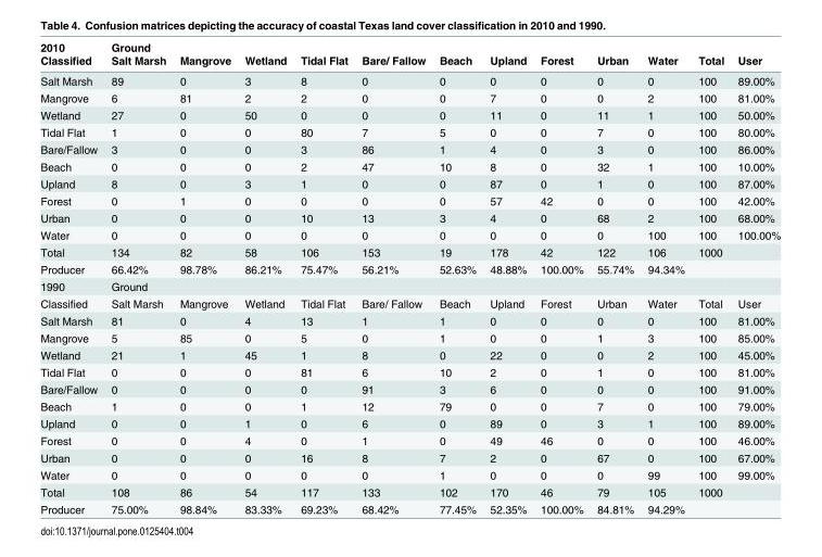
<table><thead><tr><td rowspan="2">2010 Classified</td><td rowspan="2">Ground Salt Marsh</td><td rowspan="2">Mangrove</td><td rowspan="2">Wetland</td><td rowspan="2">Tidal Flat</td><td rowspan="2">Bare/ Fallow</td><td rowspan="2">Beach</td><td rowspan="2">Upland</td><td rowspan="2">Forest</td><td rowspan="2">Urban</td><td rowspan="2">Water</td><td rowspan="2">Total</td><td rowspan="2">User</td></tr><tr></tr></thead><tbody><tr><td>Salt Marsh</td><td>89</td><td>0</td><td>3</td><td>8</td><td>0</td><td>0</td><td>0</td><td>0</td><td>0</td><td>0</td><td>100</td><td>89.00%</td></tr><tr><td>Mangrove</td><td>6</td><td>81</td><td>2</td><td>2</td><td>0</td><td>0</td><td>7</td><td>0</td><td>0</td><td>2</td><td>100</td><td>81.00%</td></tr><tr><td>Wetland</td><td>27</td><td>0</td><td>50</td><td>0</td><td>0</td><td>0</td><td>11</td><td>0</td><td>11</td><td>1</td><td>100</td><td>50.00%</td></tr><tr><td>Tidal Flat</td><td>1</td><td>0</td><td>0</td><td>80</td><td>7</td><td>5</td><td>0</td><td>0</td><td>7</td><td>0</td><td>100</td><td>80.00%</td></tr><tr><td>Bare/Fallow</td><td>3</td><td>0</td><td>0</td><td>3</td><td>86</td><td>1</td><td>4</td><td>0</td><td>3</td><td>0</td><td>100</td><td>86.00%</td></tr><tr><td>Beach</td><td>0</td><td>0</td><td>0</td><td>2</td><td>47</td><td>10</td><td>8</td><td>0</td><td>32</td><td>1</td><td>100</td><td>10.00%</td></tr><tr><td>Upland</td><td>8</td><td>0</td><td>3</td><td>1</td><td>0</td><td>0</td><td>87</td><td>0</td><td>1</td><td>0</td><td>100</td><td>87.00%</td></tr><tr><td>Forest</td><td>0</td><td>1</td><td>0</td><td>0</td><td>0</td><td>0</td><td>57</td><td>42</td><td>0</td><td>0</td><td>100</td><td>42.00%</td></tr><tr><td>Urban</td><td>0</td><td>0</td><td>0</td><td>10</td><td>13</td><td>3</td><td>4</td><td>0</td><td>68</td><td>2</td><td>100</td><td>68.00%</td></tr><tr><td>Water</td><td>0</td><td>0</td><td>0</td><td>0</td><td>0</td><td>0</td><td>0</td><td>0</td><td>0</td><td>100</td><td>100</td><td>100.00%</td></tr><tr><td>Total</td><td>134</td><td>82</td><td>58</td><td>106</td><td>153</td><td>19</td><td>178</td><td>42</td><td>122</td><td>106</td><td>1000</td><td></td></tr><tr><td>Producer</td><td>66.42%</td><td>98.78%</td><td>86.21%</td><td>75.47%</td><td>56.21%</td><td>52.63%</td><td>48.88%</td><td>100.00%</td><td>55.74%</td><td>94.34%</td><td></td><td></td></tr><tr><td>1990</td><td>Ground</td><td></td><td></td><td></td><td></td><td></td><td></td><td></td><td></td><td></td><td></td><td></td></tr><tr><td>Classified</td><td>Salt Marsh</td><td>Mangrove</td><td>Wetland</td><td>Tidal Flat</td><td>Bare/ Fallow</td><td>Beach</td><td>Upland</td><td>Forest</td><td>Urban</td><td>Water</td><td>Total</td><td>User</td></tr><tr><td>Salt Marsh</td><td>81</td><td>0</td><td>4</td><td>13</td><td>1</td><td>1</td><td>0</td><td>0</td><td>0</td><td>0</td><td>100</td><td>81.00%</td></tr><tr><td>Mangrove</td><td>5</td><td>85</td><td>0</td><td>5</td><td>0</td><td>1</td><td>0</td><td>0</td><td>1</td><td>3</td><td>100</td><td>85.00%</td></tr><tr><td>Wetland</td><td>21</td><td>1</td><td>45</td><td>1</td><td>8</td><td>0</td><td>22</td><td>0</td><td>0</td><td>2</td><td>100</td><td>45.00%</td></tr><tr><td>Tidal Flat</td><td>0</td><td>0</td><td>0</td><td>81</td><td>6</td><td>10</td><td>2</td><td>0</td><td>1</td><td>0</td><td>100</td><td>81.00%</td></tr><tr><td>Bare/Fallow</td><td>0</td><td>0</td><td>0</td><td>0</td><td>91</td><td>3</td><td>6</td><td>0</td><td>0</td><td>0</td><td>100</td><td>91.00%</td></tr><tr><td>Beach</td><td>1</td><td>0</td><td>0</td><td>1</td><td>12</td><td>79</td><td>0</td><td>0</td><td>7</td><td>0</td><td>100</td><td>79.00%</td></tr><tr><td>Upland</td><td>0</td><td>0</td><td>1</td><td>0</td><td>6</td><td>0</td><td>89</td><td>0</td><td>3</td><td>1</td><td>100</td><td>89.00%</td></tr><tr><td>Forest</td><td>0</td><td>0</td><td>4</td><td>0</td><td>1</td><td>0</td><td>49</td><td>46</td><td>0</td><td>0</td><td>100</td><td>46.00%</td></tr><tr><td>Urban</td><td>0</td><td>0</td><td>0</td><td>16</td><td>8</td><td>7</td><td>2</td><td>0</td><td>67</td><td>0</td><td>100</td><td>67.00%</td></tr><tr><td>Water</td><td>0</td><td>0</td><td>0</td><td>0</td><td>0</td><td>1</td><td>0</td><td>0</td><td>0</td><td>99</td><td>100</td><td>99.00%</td></tr><tr><td>Total</td><td>108</td><td>86</td><td>54</td><td>117</td><td>133</td><td>102</td><td>170</td><td>46</td><td>79</td><td>105</td><td>1000</td><td></td></tr><tr><td>Producer</td><td>75.00%</td><td>98.84%</td><td>83.33%</td><td>69.23%</td><td>68.42%</td><td>77.45%</td><td>52.35%</td><td>100.00%</td><td>84.81%</td><td>94.29%</td><td></td><td></td></tr></tbody></table>